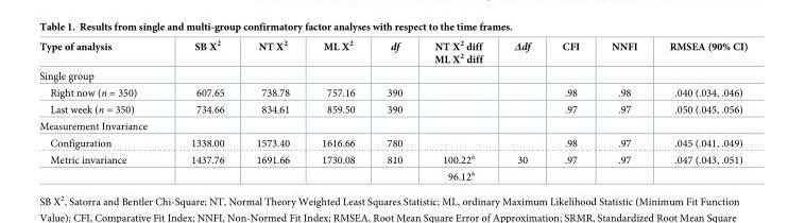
<table><thead><tr><td>Type of analysis</td><td>SB X<sup>2</sup></td><td>NT X<sup>2</sup></td><td>ML X<sup>2</sup></td><td>df</td><td>NT X<sup>2</sup> diff ML X<sup>2</sup> diff</td><td>Δdf</td><td>CFI</td><td>NNFI</td><td>RMSEA (90% CI)</td></tr></thead><tbody><tr><td colspan="10">Single group</td></tr><tr><td>Right now (n = 350)</td><td>607.65</td><td>738.78</td><td>757.16</td><td>390</td><td></td><td></td><td>.98</td><td>.98</td><td>.040 (.034, .046)</td></tr><tr><td>Last week (n = 350)</td><td>734.66</td><td>834.61</td><td>859.50</td><td>390</td><td></td><td></td><td>.97</td><td>.97</td><td>.050 (.045, .056)</td></tr><tr><td colspan="10">Measurement Invariance</td></tr><tr><td>Configuration</td><td>1338.00</td><td>1573.40</td><td>1616.66</td><td>780</td><td></td><td></td><td>.98</td><td>.97</td><td>.045 (.041, .049)</td></tr><tr><td rowspan="2">Metric invariance</td><td>1437.76</td><td>1691.66</td><td>1730.08</td><td>810</td><td>100.22<sup>a</sup></td><td>30</td><td>.97</td><td>.97</td><td>.047 (.043, .051)</td></tr><tr><td></td><td></td><td></td><td></td><td>96.12<sup>a</sup></td><td></td><td></td><td></td><td></td></tr></tbody></table>